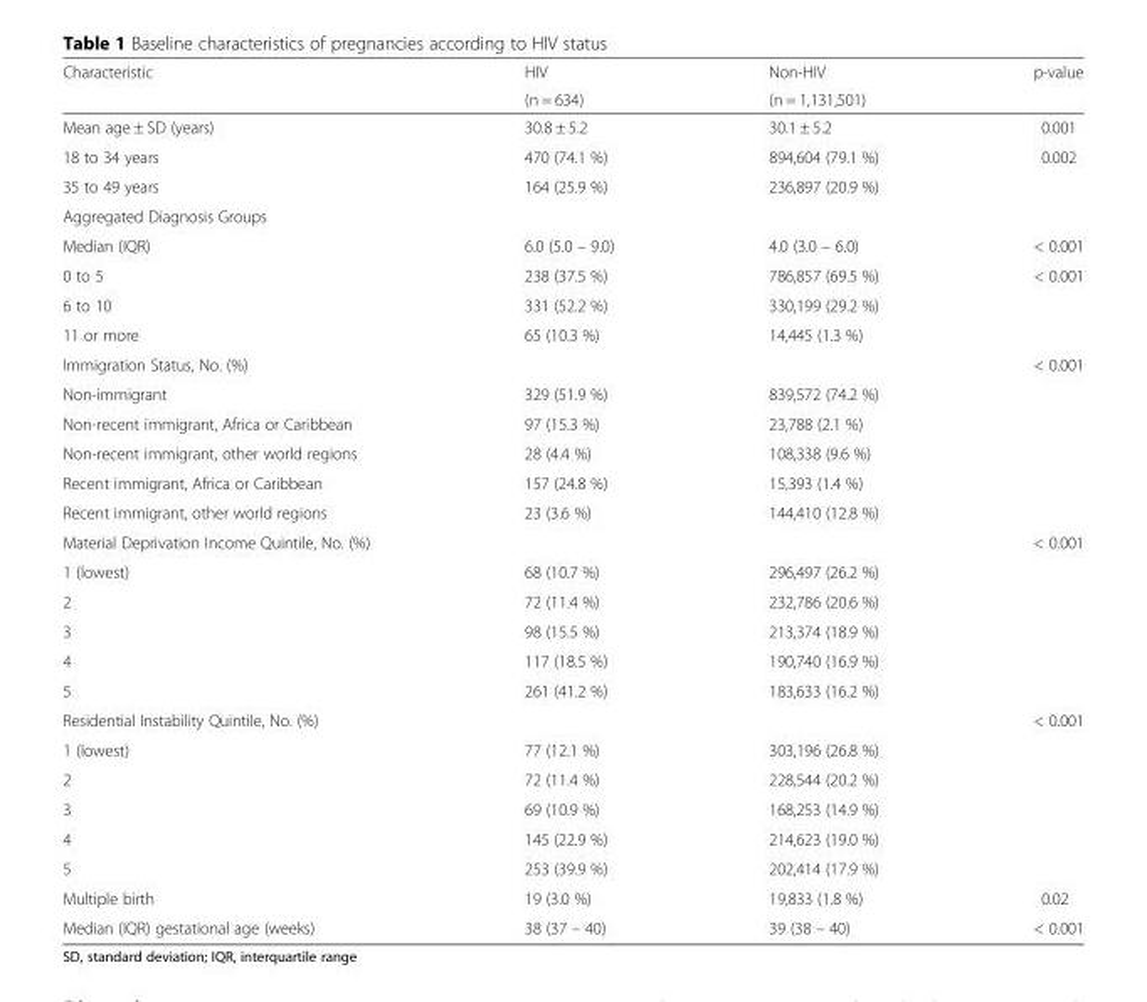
<table><thead><tr><td rowspan="2">Characteristic</td><td rowspan="2">HIV (n = 634)</td><td rowspan="2">Non-HIV (n = 1,131,501)</td><td rowspan="2">p-value</td></tr><tr></tr></thead><tbody><tr><td>Mean age ± SD (years)</td><td>30.8 ± 5.2</td><td>30.1 ± 5.2</td><td>0.001</td></tr><tr><td>18 to 34 years</td><td>470 (74.1 %)</td><td>894,604 (79.1 %)</td><td>0.002</td></tr><tr><td>35 to 49 years</td><td>164 (25.9 %)</td><td>236,897 (20.9 %)</td><td></td></tr><tr><td colspan="4">Aggregated Diagnosis Groups</td></tr><tr><td>Median (IQR)</td><td>6.0 (5.0 – 9.0)</td><td>4.0 (3.0 – 6.0)</td><td>&lt; 0.001</td></tr><tr><td>0 to 5</td><td>238 (37.5 %)</td><td>786,857 (69.5 %)</td><td>&lt; 0.001</td></tr><tr><td>6 to 10</td><td>331 (52.2 %)</td><td>330,199 (29.2 %)</td><td></td></tr><tr><td>11 or more</td><td>65 (10.3 %)</td><td>14,445 (1.3 %)</td><td></td></tr><tr><td>Immigration Status, No. (%)</td><td></td><td></td><td>&lt; 0.001</td></tr><tr><td>Non-immigrant</td><td>329 (51.9 %)</td><td>839,572 (74.2 %)</td><td></td></tr><tr><td>Non-recent immigrant, Africa or Caribbean</td><td>97 (15.3 %)</td><td>23,788 (2.1 %)</td><td></td></tr><tr><td>Non-recent immigrant, other world regions</td><td>28 (4.4 %)</td><td>108,338 (9.6 %)</td><td></td></tr><tr><td>Recent immigrant, Africa or Caribbean</td><td>157 (24.8 %)</td><td>15,393 (1.4 %)</td><td></td></tr><tr><td>Recent immigrant, other world regions</td><td>23 (3.6 %)</td><td>144,410 (12.8 %)</td><td></td></tr><tr><td>Material Deprivation Income Quintile, No. (%)</td><td></td><td></td><td>&lt; 0.001</td></tr><tr><td>1 (lowest)</td><td>68 (10.7 %)</td><td>296,497 (26.2 %)</td><td></td></tr><tr><td>2</td><td>72 (11.4 %)</td><td>232,786 (20.6 %)</td><td></td></tr><tr><td>3</td><td>98 (15.5 %)</td><td>213,374 (18.9 %)</td><td></td></tr><tr><td>4</td><td>117 (18.5 %)</td><td>190,740 (16.9 %)</td><td></td></tr><tr><td>5</td><td>261 (41.2 %)</td><td>183,633 (16.2 %)</td><td></td></tr><tr><td>Residential Instability Quintile, No. (%)</td><td></td><td></td><td>&lt; 0.001</td></tr><tr><td>1 (lowest)</td><td>77 (12.1 %)</td><td>303,196 (26.8 %)</td><td></td></tr><tr><td>2</td><td>72 (11.4 %)</td><td>228,544 (20.2 %)</td><td></td></tr><tr><td>3</td><td>69 (10.9 %)</td><td>168,253 (14.9 %)</td><td></td></tr><tr><td>4</td><td>145 (22.9 %)</td><td>214,623 (19.0 %)</td><td></td></tr><tr><td>5</td><td>253 (39.9 %)</td><td>202,414 (17.9 %)</td><td></td></tr><tr><td>Multiple birth</td><td>19 (3.0 %)</td><td>19,833 (1.8 %)</td><td>0.02</td></tr><tr><td>Median (IQR) gestational age (weeks)</td><td>38 (37 – 40)</td><td>39 (38 – 40)</td><td>&lt; 0.001</td></tr></tbody></table>